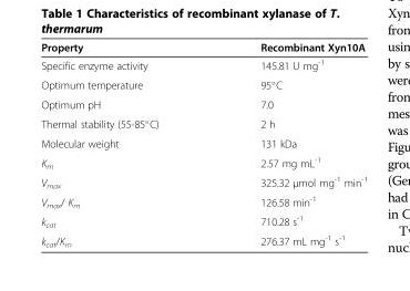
<table><thead><tr><td>Property</td><td>Recombinant Xyn10A</td></tr></thead><tbody><tr><td>Specific enzyme activity</td><td>145.81 U mg<sup>-1</sup></td></tr><tr><td>Optimum temperature</td><td>95°C</td></tr><tr><td>Optimum pH</td><td>7.0</td></tr><tr><td>Thermal stability (55-85°C)</td><td>2 h</td></tr><tr><td>Molecular weight</td><td>131 kDa</td></tr><tr><td>K<sub>m</sub></td><td>2.57 mg mL<sup>-1</sup></td></tr><tr><td>V<sub>max</sub></td><td>325.32 μmol mg<sup>-1</sup> min<sup>-1</sup></td></tr><tr><td>V<sub>max</sub>/ K<sub>m</sub></td><td>126.58 min<sup>-1</sup></td></tr><tr><td>k<sub>cat</sub></td><td>710.28 s<sup>-1</sup></td></tr><tr><td>k<sub>cat</sub>/K<sub>m</sub></td><td>276.37 mL mg<sup>-1</sup> s<sup>-1</sup></td></tr></tbody></table>